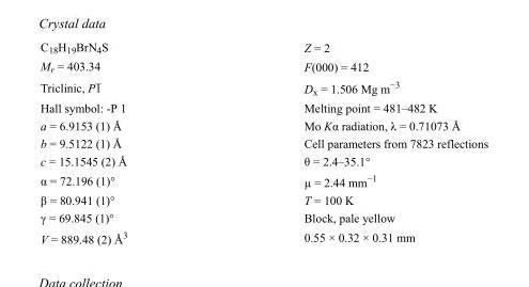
<table><tbody><tr><td>C<sub>18</sub>H<sub>19</sub>BrN<sub>4</sub>S</td><td>Z = 2</td></tr><tr><td>M<sub>r</sub> = 403.34</td><td>F(000) = 412</td></tr><tr><td>Triclinic, P1</td><td>D<sub>x</sub> = 1.506 Mg m<sup>−3</sup></td></tr><tr><td>Hall symbol: -P 1</td><td>Melting point = 481–482 K</td></tr><tr><td>a = 6.9153 (1) Å</td><td>Mo Kα radiation, λ = 0.71073 Å</td></tr><tr><td>b = 9.5122 (1) Å</td><td>Cell parameters from 7823 reflections</td></tr><tr><td>c = 15.1545 (2) Å</td><td>θ = 2.4–35.1°</td></tr><tr><td>α = 72.196 (1)°</td><td>µ = 2.44 mm<sup>−1</sup></td></tr><tr><td>β = 80.941 (1)°</td><td>T = 100 K</td></tr><tr><td>γ = 69.845 (1)°</td><td>Block, pale yellow</td></tr><tr><td>V = 889.48 (2) Å<sup>3</sup></td><td>0.55 × 0.32 × 0.31 mm</td></tr></tbody></table>